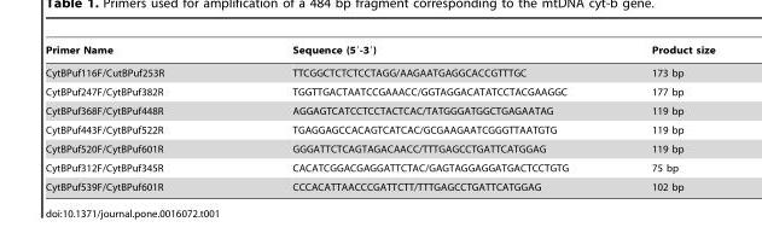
<table><thead><tr><td>Primer Name</td><td>Sequence (5′-3′)</td><td>Product size</td></tr></thead><tbody><tr><td>CytBPuf116F/CutBPuf253R</td><td>TTCGGCTCTCTCCTAGG/AAGAATGAGGCACCGTTTGC</td><td>173 bp</td></tr><tr><td>CytBPuf247F/CytBPuf382R</td><td>TGGTTGACTAATCCGAAACC/GGTAGGACATATCCTACGAAGGC</td><td>177 bp</td></tr><tr><td>CytBPuf368F/CytBPuf448R</td><td>AGGAGTCATCCTCCTACTCAC/TATGGGATGGCTGAGAATAG</td><td>119 bp</td></tr><tr><td>CytBPuf443F/CytBPuf522R</td><td>TGAGGAGCCACAGTCATCAC/GCGAAGAATCGGGTTAATGTG</td><td>119 bp</td></tr><tr><td>CytBPuf520F/CytBPuf601R</td><td>GGGATTCTCAGTAGACAACC/TTTGAGCCTGATTCATGGAG</td><td>119 bp</td></tr><tr><td>CytBPuf312F/CytBPuf345R</td><td>CACATCGGACGAGGATTCTAC/GAGTAGGAGGATGACTCCTGTG</td><td>75 bp</td></tr><tr><td>CytBPuf539F/CytBPuf601R</td><td>CCCACATTAACCCGATTCTT/TTTGAGCCTGATTCATGGAG</td><td>102 bp</td></tr></tbody></table>